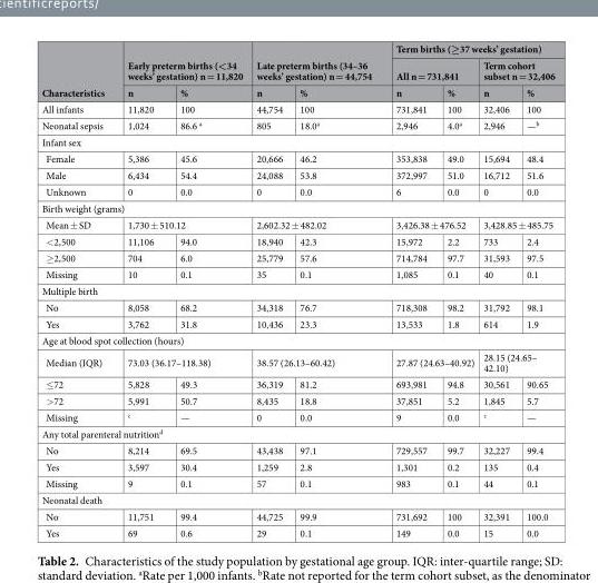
<table><thead><tr><td rowspan="3">Characteristics</td><td rowspan="2" colspan="2">Early preterm births (&lt;34 weeks’ gestation) n = 11,820</td><td rowspan="2" colspan="2">Late preterm births (34–36 weeks’ gestation) n = 44,754</td><td colspan="4">Term births (≥37 weeks’ gestation)</td></tr><tr><td colspan="2">All n = 731,841</td><td colspan="2">Term cohort subset n = 32,406</td></tr><tr><td>n</td><td>%</td><td>n</td><td>%</td><td>n</td><td>%</td><td>n</td><td>%</td></tr></thead><tbody><tr><td>All infants</td><td>11,820</td><td>100</td><td>44,754</td><td>100</td><td>731,841</td><td>100</td><td>32,406</td><td>100</td></tr><tr><td>Neonatal sepsis</td><td>1,024</td><td>86.6 <sup>a</sup></td><td>805</td><td>18.0<sup>a</sup></td><td>2,946</td><td>4.0<sup>a</sup></td><td>2,946</td><td>—<sup>b</sup></td></tr><tr><td colspan="9">Infant sex</td></tr><tr><td>Female</td><td>5,386</td><td>45.6</td><td>20,666</td><td>46.2</td><td>353,838</td><td>49.0</td><td>15,694</td><td>48.4</td></tr><tr><td>Male</td><td>6,434</td><td>54.4</td><td>24,088</td><td>53.8</td><td>372,997</td><td>51.0</td><td>16,712</td><td>51.6</td></tr><tr><td>Unknown</td><td>0</td><td>0.0</td><td>0</td><td>0.0</td><td>6</td><td>0.0</td><td>0</td><td>0.0</td></tr><tr><td colspan="9">Birth weight (grams)</td></tr><tr><td>Mean ± SD</td><td colspan="2">1,730 ± 510.12</td><td colspan="2">2,602.32 ± 482.02</td><td colspan="2">3,426.38 ± 476.52</td><td colspan="2">3,428.85 ± 485.75</td></tr><tr><td>&lt;2,500</td><td>11,106</td><td>94.0</td><td>18,940</td><td>42.3</td><td>15,972</td><td>2.2</td><td>733</td><td>2.4</td></tr><tr><td>≥2,500</td><td>704</td><td>6.0</td><td>25,779</td><td>57.6</td><td>714,784</td><td>97.7</td><td>31,593</td><td>97.5</td></tr><tr><td>Missing</td><td>10</td><td>0.1</td><td>35</td><td>0.1</td><td>1,085</td><td>0.1</td><td>40</td><td>0.1</td></tr><tr><td colspan="9">Multiple birth</td></tr><tr><td>No</td><td>8,058</td><td>68.2</td><td>34,318</td><td>76.7</td><td>718,308</td><td>98.2</td><td>31,792</td><td>98.1</td></tr><tr><td>Yes</td><td>3,762</td><td>31.8</td><td>10,436</td><td>23.3</td><td>13,533</td><td>1.8</td><td>614</td><td>1.9</td></tr><tr><td colspan="9">Age at blood spot collection (hours)</td></tr><tr><td>Median (IQR)</td><td colspan="2">73.03 (36.17–118.38)</td><td colspan="2">38.57 (26.13–60.42)</td><td colspan="2">27.87 (24.63–40.92)</td><td colspan="2">28.15 (24.65– 42.10)</td></tr><tr><td>≤72</td><td>5,828</td><td>49.3</td><td>36,319</td><td>81.2</td><td>693,981</td><td>94.8</td><td>30,561</td><td>90.65</td></tr><tr><td>&gt;72</td><td>5,991</td><td>50.7</td><td>8,435</td><td>18.8</td><td>37,851</td><td>5.2</td><td>1,845</td><td>5.7</td></tr><tr><td>Missing</td><td><sup>c</sup></td><td>—</td><td>0</td><td>0.0</td><td>9</td><td>0.0</td><td><sup>c</sup></td><td>—</td></tr><tr><td colspan="9">Any total parenteral nutrition<sup>d</sup></td></tr><tr><td>No</td><td>8,214</td><td>69.5</td><td>43,438</td><td>97.1</td><td>729,557</td><td>99.7</td><td>32,227</td><td>99.4</td></tr><tr><td>Yes</td><td>3,597</td><td>30.4</td><td>1,259</td><td>2.8</td><td>1,301</td><td>0.2</td><td>135</td><td>0.4</td></tr><tr><td>Missing</td><td>9</td><td>0.1</td><td>57</td><td>0.1</td><td>983</td><td>0.1</td><td>44</td><td>0.1</td></tr><tr><td colspan="9">Neonatal death</td></tr><tr><td>No</td><td>11,751</td><td>99.4</td><td>44,725</td><td>99.9</td><td>731,692</td><td>100</td><td>32,391</td><td>100.0</td></tr><tr><td>Yes</td><td>69</td><td>0.6</td><td>29</td><td>0.1</td><td>149</td><td>0.0</td><td>15</td><td>0.0</td></tr></tbody></table>